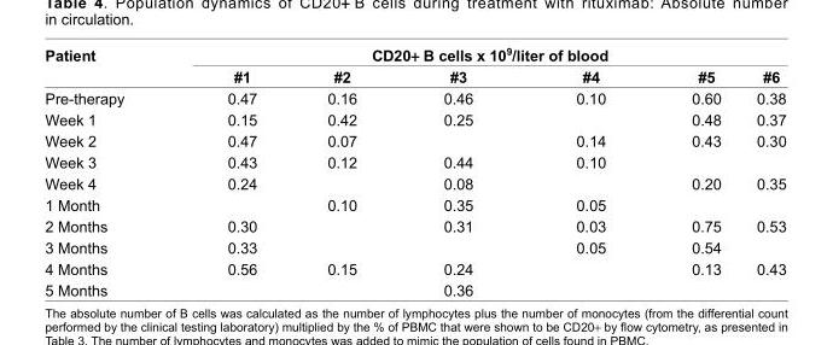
<table><thead><tr><td rowspan="2">Patient</td><td colspan="6">CD20+ B cells x 10<sup>9</sup>/liter of blood</td></tr><tr><td>#1</td><td>#2</td><td>#3</td><td>#4</td><td>#5</td><td>#6</td></tr></thead><tbody><tr><td>Pre-therapy</td><td>0.47</td><td>0.16</td><td>0.46</td><td>0.10</td><td>0.60</td><td>0.38</td></tr><tr><td>Week 1</td><td>0.15</td><td>0.42</td><td>0.25</td><td></td><td>0.48</td><td>0.37</td></tr><tr><td>Week 2</td><td>0.47</td><td>0.07</td><td></td><td>0.14</td><td>0.43</td><td>0.30</td></tr><tr><td>Week 3</td><td>0.43</td><td>0.12</td><td>0.44</td><td>0.10</td><td></td><td></td></tr><tr><td>Week 4</td><td>0.24</td><td></td><td>0.08</td><td></td><td>0.20</td><td>0.35</td></tr><tr><td>1 Month</td><td></td><td>0.10</td><td>0.35</td><td>0.05</td><td></td><td></td></tr><tr><td>2 Months</td><td>0.30</td><td></td><td>0.31</td><td>0.03</td><td>0.75</td><td>0.53</td></tr><tr><td>3 Months</td><td>0.33</td><td></td><td></td><td>0.05</td><td>0.54</td><td></td></tr><tr><td>4 Months</td><td>0.56</td><td>0.15</td><td>0.24</td><td></td><td>0.13</td><td>0.43</td></tr><tr><td>5 Months</td><td></td><td></td><td>0.36</td><td></td><td></td><td></td></tr></tbody></table>